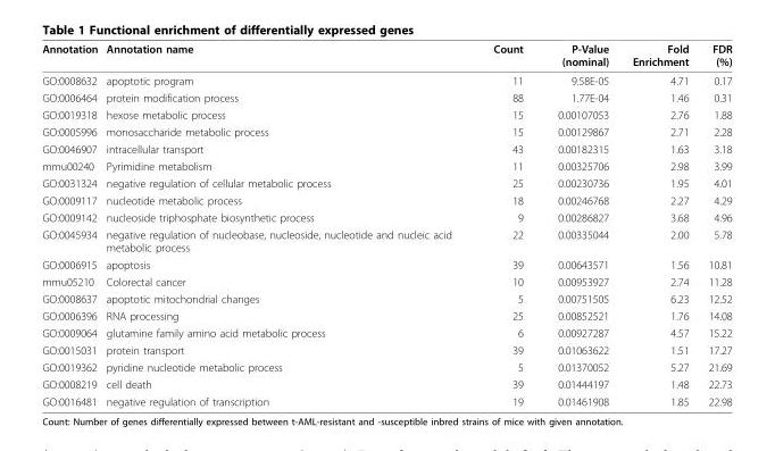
<table><thead><tr><td>Annotation</td><td>Annotation name</td><td>Count</td><td>P-Value (nominal)</td><td>Fold Enrichment</td><td>FDR (%)</td></tr></thead><tbody><tr><td>GO:0008632</td><td>apoptotic program</td><td>11</td><td>9.58E-05</td><td>4.71</td><td>0.17</td></tr><tr><td>GO:0006464</td><td>protein modification process</td><td>88</td><td>1.77E-04</td><td>1.46</td><td>0.31</td></tr><tr><td>GO:0019318</td><td>hexose metabolic process</td><td>15</td><td>0.00107053</td><td>2.76</td><td>1.88</td></tr><tr><td>GO:0005996</td><td>monosaccharide metabolic process</td><td>15</td><td>0.00129867</td><td>2.71</td><td>2.28</td></tr><tr><td>GO:0046907</td><td>intracellular transport</td><td>43</td><td>0.00182315</td><td>1.63</td><td>3.18</td></tr><tr><td>mmu00240</td><td>Pyrimidine metabolism</td><td>11</td><td>0.00325706</td><td>2.98</td><td>3.99</td></tr><tr><td>GO:0031324</td><td>negative regulation of cellular metabolic process</td><td>25</td><td>0.00230736</td><td>1.95</td><td>4.01</td></tr><tr><td>GO:0009117</td><td>nucleotide metabolic process</td><td>18</td><td>0.00246768</td><td>2.27</td><td>4.29</td></tr><tr><td>GO:0009142</td><td>nucleoside triphosphate biosynthetic process</td><td>9</td><td>0.00286827</td><td>3.68</td><td>4.96</td></tr><tr><td>GO:0045934</td><td>negative regulation of nucleobase, nucleoside, nucleotide and nucleic acid metabolic process</td><td>22</td><td>0.00335044</td><td>2.00</td><td>5.78</td></tr><tr><td>GO:0006915</td><td>apoptosis</td><td>39</td><td>0.00643571</td><td>1.56</td><td>10.81</td></tr><tr><td>mmu05210</td><td>Colorectal cancer</td><td>10</td><td>0.00953927</td><td>2.74</td><td>11.28</td></tr><tr><td>GO:0008637</td><td>apoptotic mitochondrial changes</td><td>5</td><td>0.00751505</td><td>6.23</td><td>12.52</td></tr><tr><td>GO:0006396</td><td>RNA processing</td><td>25</td><td>0.00852521</td><td>1.76</td><td>14.08</td></tr><tr><td>GO:0009064</td><td>glutamine family amino acid metabolic process</td><td>6</td><td>0.00927287</td><td>4.57</td><td>15.22</td></tr><tr><td>GO:0015031</td><td>protein transport</td><td>39</td><td>0.01063622</td><td>1.51</td><td>17.27</td></tr><tr><td>GO:0019362</td><td>pyridine nucleotide metabolic process</td><td>5</td><td>0.01370052</td><td>5.27</td><td>21.69</td></tr><tr><td>GO:0008219</td><td>cell death</td><td>39</td><td>0.01444197</td><td>1.48</td><td>22.73</td></tr><tr><td>GO:0016481</td><td>negative regulation of transcription</td><td>19</td><td>0.01461908</td><td>1.85</td><td>22.98</td></tr></tbody></table>